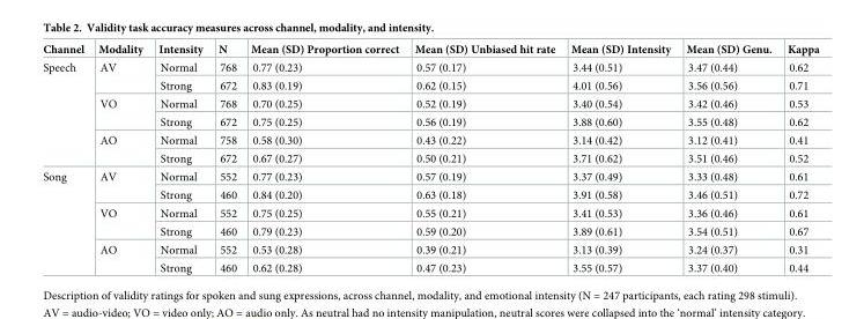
<table><thead><tr><td>Channel</td><td>Modality</td><td>Intensity</td><td>N</td><td>Mean (SD) Proportion correct</td><td>Mean (SD) Unbiased hit rate</td><td>Mean (SD) Intensity</td><td>Mean (SD) Genu.</td><td>Kappa</td></tr></thead><tbody><tr><td rowspan="6">Speech</td><td rowspan="2">AV</td><td>Normal</td><td>768</td><td>0.77 (0.23)</td><td>0.57 (0.17)</td><td>3.44 (0.51)</td><td>3.47 (0.44)</td><td>0.62</td></tr><tr><td>Strong</td><td>672</td><td>0.83 (0.19)</td><td>0.62 (0.15)</td><td>4.01 (0.56)</td><td>3.56 (0.56)</td><td>0.71</td></tr><tr><td rowspan="2">VO</td><td>Normal</td><td>768</td><td>0.70 (0.25)</td><td>0.52 (0.19)</td><td>3.40 (0.54)</td><td>3.42 (0.46)</td><td>0.53</td></tr><tr><td>Strong</td><td>672</td><td>0.75 (0.25)</td><td>0.56 (0.19)</td><td>3.88 (0.60)</td><td>3.55 (0.48)</td><td>0.62</td></tr><tr><td rowspan="2">AO</td><td>Normal</td><td>758</td><td>0.58 (0.30)</td><td>0.43 (0.22)</td><td>3.14 (0.42)</td><td>3.12 (0.41)</td><td>0.41</td></tr><tr><td>Strong</td><td>672</td><td>0.67 (0.27)</td><td>0.50 (0.21)</td><td>3.71 (0.62)</td><td>3.51 (0.46)</td><td>0.52</td></tr><tr><td rowspan="6">Song</td><td rowspan="2">AV</td><td>Normal</td><td>552</td><td>0.77 (0.23)</td><td>0.57 (0.19)</td><td>3.37 (0.49)</td><td>3.33 (0.48)</td><td>0.61</td></tr><tr><td>Strong</td><td>460</td><td>0.84 (0.20)</td><td>0.63 (0.18)</td><td>3.91 (0.58)</td><td>3.46 (0.51)</td><td>0.72</td></tr><tr><td rowspan="2">VO</td><td>Normal</td><td>552</td><td>0.75 (0.25)</td><td>0.55 (0.21)</td><td>3.41 (0.53)</td><td>3.36 (0.46)</td><td>0.61</td></tr><tr><td>Strong</td><td>460</td><td>0.79 (0.23)</td><td>0.59 (0.20)</td><td>3.89 (0.61)</td><td>3.54 (0.51)</td><td>0.67</td></tr><tr><td rowspan="2">AO</td><td>Normal</td><td>552</td><td>0.53 (0.28)</td><td>0.39 (0.21)</td><td>3.13 (0.39)</td><td>3.24 (0.37)</td><td>0.31</td></tr><tr><td>Strong</td><td>460</td><td>0.62 (0.28)</td><td>0.47 (0.23)</td><td>3.55 (0.57)</td><td>3.37 (0.40)</td><td>0.44</td></tr></tbody></table>